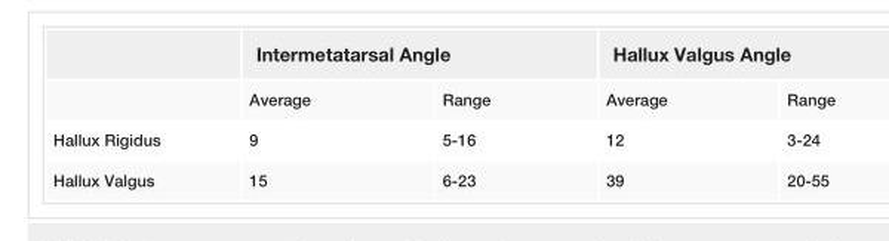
<table><thead><tr><td rowspan="2"></td><td colspan="2">Intermetatarsal Angle</td><td colspan="2">Hallux Valgus Angle</td></tr><tr><td>Average</td><td>Range</td><td>Average</td><td>Range</td></tr></thead><tbody><tr><td>Hallux Rigidus</td><td>9</td><td>5-16</td><td>12</td><td>3-24</td></tr><tr><td>Hallux Valgus</td><td>15</td><td>6-23</td><td>39</td><td>20-55</td></tr></tbody></table>